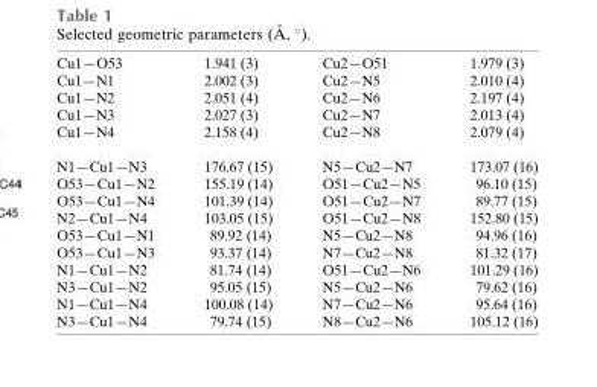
<table><tbody><tr><td>Cu1—O53</td><td>1.941 (3)</td><td>Cu2—O51</td><td>1.979 (3)</td></tr><tr><td>Cu1—N1</td><td>2.002 (3)</td><td>Cu2—N5</td><td>2.010 (4)</td></tr><tr><td>Cu1—N2</td><td>2.051 (4)</td><td>Cu2—N6</td><td>2.197 (4)</td></tr><tr><td>Cu1—N3</td><td>2.027 (3)</td><td>Cu2—N7</td><td>2.013 (4)</td></tr><tr><td>Cu1—N4</td><td>2.158 (4)</td><td>Cu2—N8</td><td>2.079 (4)</td></tr><tr><td>N1—Cu1—N3</td><td>176.67 (15)</td><td>N5—Cu2—N7</td><td>173.07 (16)</td></tr><tr><td>O53—Cu1—N2</td><td>155.19 (14)</td><td>O51—Cu2—N5</td><td>96.10 (15)</td></tr><tr><td>O53—Cu1—N4</td><td>101.39 (14)</td><td>O51—Cu2—N7</td><td>89.77 (15)</td></tr><tr><td>N2—Cu1—N4</td><td>103.05 (15)</td><td>O51—Cu2—N8</td><td>152.80 (15)</td></tr><tr><td>O53—Cu1—N1</td><td>89.92 (14)</td><td>N5—Cu2—N8</td><td>94.96 (16)</td></tr><tr><td>O53—Cu1—N3</td><td>93.37 (14)</td><td>N7—Cu2—N8</td><td>81.32 (17)</td></tr><tr><td>N1—Cu1—N2</td><td>81.74 (14)</td><td>O51—Cu2—N6</td><td>101.29 (16)</td></tr><tr><td>N3—Cu1—N2</td><td>95.05 (15)</td><td>N5—Cu2—N6</td><td>79.62 (16)</td></tr><tr><td>N1—Cu1—N4</td><td>100.08 (14)</td><td>N7—Cu2—N6</td><td>95.64 (16)</td></tr><tr><td>N3—Cu1—N4</td><td>79.74 (15)</td><td>N8—Cu2—N6</td><td>105.12 (16)</td></tr></tbody></table>